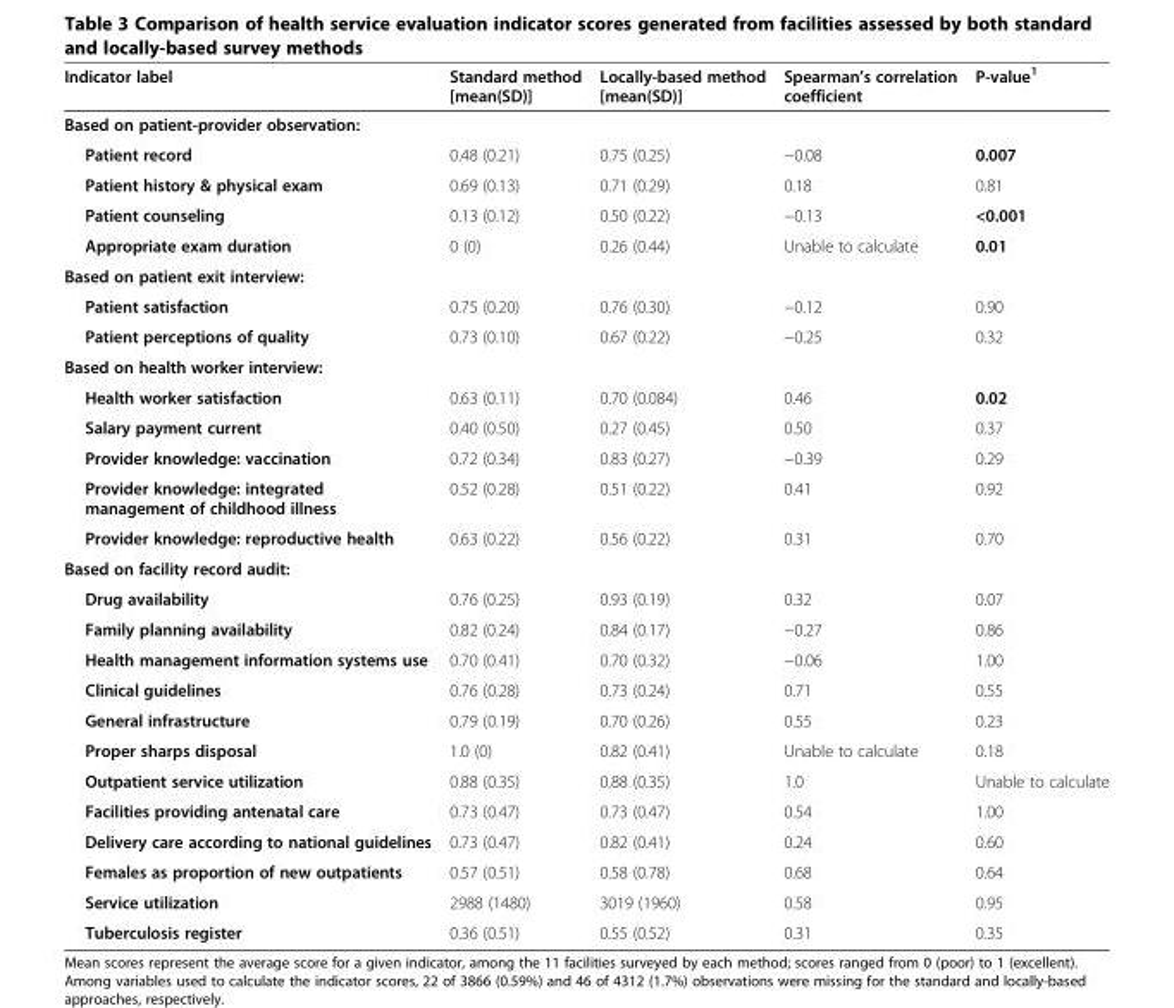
<table><thead><tr><td>Indicator label</td><td>Standard method [mean(SD)]</td><td>Locally-based method [mean(SD)]</td><td>Spearman’s correlation coefficient</td><td>P-value<sup>1</sup></td></tr></thead><tbody><tr><td colspan="5">Based on patient-provider observation:</td></tr><tr><td>Patient record</td><td>0.48 (0.21)</td><td>0.75 (0.25)</td><td>−0.08</td><td>0.007</td></tr><tr><td>Patient history &amp; physical exam</td><td>0.69 (0.13)</td><td>0.71 (0.29)</td><td>0.18</td><td>0.81</td></tr><tr><td>Patient counseling</td><td>0.13 (0.12)</td><td>0.50 (0.22)</td><td>−0.13</td><td>&lt;0.001</td></tr><tr><td>Appropriate exam duration</td><td>0 (0)</td><td>0.26 (0.44)</td><td>Unable to calculate</td><td>0.01</td></tr><tr><td colspan="5">Based on patient exit interview:</td></tr><tr><td>Patient satisfaction</td><td>0.75 (0.20)</td><td>0.76 (0.30)</td><td>−0.12</td><td>0.90</td></tr><tr><td>Patient perceptions of quality</td><td>0.73 (0.10)</td><td>0.67 (0.22)</td><td>−0.25</td><td>0.32</td></tr><tr><td colspan="5">Based on health worker interview:</td></tr><tr><td>Health worker satisfaction</td><td>0.63 (0.11)</td><td>0.70 (0.084)</td><td>0.46</td><td>0.02</td></tr><tr><td>Salary payment current</td><td>0.40 (0.50)</td><td>0.27 (0.45)</td><td>0.50</td><td>0.37</td></tr><tr><td>Provider knowledge: vaccination</td><td>0.72 (0.34)</td><td>0.83 (0.27)</td><td>−0.39</td><td>0.29</td></tr><tr><td>Provider knowledge: integrated management of childhood illness</td><td>0.52 (0.28)</td><td>0.51 (0.22)</td><td>0.41</td><td>0.92</td></tr><tr><td>Provider knowledge: reproductive health</td><td>0.63 (0.22)</td><td>0.56 (0.22)</td><td>0.31</td><td>0.70</td></tr><tr><td colspan="5">Based on facility record audit:</td></tr><tr><td>Drug availability</td><td>0.76 (0.25)</td><td>0.93 (0.19)</td><td>0.32</td><td>0.07</td></tr><tr><td>Family planning availability</td><td>0.82 (0.24)</td><td>0.84 (0.17)</td><td>−0.27</td><td>0.86</td></tr><tr><td>Health management information systems use</td><td>0.70 (0.41)</td><td>0.70 (0.32)</td><td>−0.06</td><td>1.00</td></tr><tr><td>Clinical guidelines</td><td>0.76 (0.28)</td><td>0.73 (0.24)</td><td>0.71</td><td>0.55</td></tr><tr><td>General infrastructure</td><td>0.79 (0.19)</td><td>0.70 (0.26)</td><td>0.55</td><td>0.23</td></tr><tr><td>Proper sharps disposal</td><td>1.0 (0)</td><td>0.82 (0.41)</td><td>Unable to calculate</td><td>0.18</td></tr><tr><td>Outpatient service utilization</td><td>0.88 (0.35)</td><td>0.88 (0.35)</td><td>1.0</td><td>Unable to calculate</td></tr><tr><td>Facilities providing antenatal care</td><td>0.73 (0.47)</td><td>0.73 (0.47)</td><td>0.54</td><td>1.00</td></tr><tr><td>Delivery care according to national guidelines</td><td>0.73 (0.47)</td><td>0.82 (0.41)</td><td>0.24</td><td>0.60</td></tr><tr><td>Females as proportion of new outpatients</td><td>0.57 (0.51)</td><td>0.58 (0.78)</td><td>0.68</td><td>0.64</td></tr><tr><td>Service utilization</td><td>2988 (1480)</td><td>3019 (1960)</td><td>0.58</td><td>0.95</td></tr><tr><td>Tuberculosis register</td><td>0.36 (0.51)</td><td>0.55 (0.52)</td><td>0.31</td><td>0.35</td></tr></tbody></table>